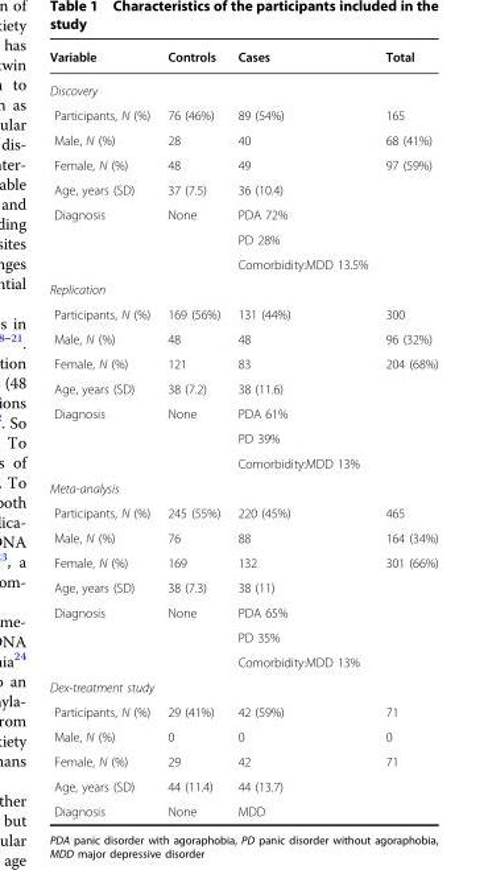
<table><thead><tr><td>Variable</td><td>Controls</td><td>Cases</td><td>Total</td></tr></thead><tbody><tr><td colspan="4">Discovery</td></tr><tr><td>Participants, N (%)</td><td>76 (46%)</td><td>89 (54%)</td><td>165</td></tr><tr><td>Male, N (%)</td><td>28</td><td>40</td><td>68 (41%)</td></tr><tr><td>Female, N (%)</td><td>48</td><td>49</td><td>97 (59%)</td></tr><tr><td>Age, years (SD)</td><td>37 (7.5)</td><td>36 (10.4)</td><td></td></tr><tr><td rowspan="3">Diagnosis</td><td>None</td><td>PDA 72%</td><td></td></tr><tr><td></td><td>PD 28%</td><td></td></tr><tr><td></td><td>Comorbidity:MDD 13.5%</td><td></td></tr><tr><td colspan="4">Replication</td></tr><tr><td>Participants, N (%)</td><td>169 (56%)</td><td>131 (44%)</td><td>300</td></tr><tr><td>Male, N (%)</td><td>48</td><td>48</td><td>96 (32%)</td></tr><tr><td>Female, N (%)</td><td>121</td><td>83</td><td>204 (68%)</td></tr><tr><td>Age, years (SD)</td><td>38 (7.2)</td><td>38 (11.6)</td><td></td></tr><tr><td rowspan="3">Diagnosis</td><td>None</td><td>PDA 61%</td><td></td></tr><tr><td></td><td>PD 39%</td><td></td></tr><tr><td></td><td>Comorbidity:MDD 13%</td><td></td></tr><tr><td colspan="4">Meta-analysis</td></tr><tr><td>Participants, N (%)</td><td>245 (55%)</td><td>220 (45%)</td><td>465</td></tr><tr><td>Male, N (%)</td><td>76</td><td>88</td><td>164 (34%)</td></tr><tr><td>Female, N (%)</td><td>169</td><td>132</td><td>301 (66%)</td></tr><tr><td>Age, years (SD)</td><td>38 (7.3)</td><td>38 (11)</td><td></td></tr><tr><td rowspan="3">Diagnosis</td><td>None</td><td>PDA 65%</td><td></td></tr><tr><td></td><td>PD 35%</td><td></td></tr><tr><td></td><td>Comorbidity:MDD 13%</td><td></td></tr><tr><td colspan="4">Dex-treatment study</td></tr><tr><td>Participants, N (%)</td><td>29 (41%)</td><td>42 (59%)</td><td>71</td></tr><tr><td>Male, N (%)</td><td>0</td><td>0</td><td>0</td></tr><tr><td>Female, N (%)</td><td>29</td><td>42</td><td>71</td></tr><tr><td>Age, years (SD)</td><td>44 (11.4)</td><td>44 (13.7)</td><td></td></tr><tr><td>Diagnosis</td><td>None</td><td>MDD</td><td></td></tr></tbody></table>